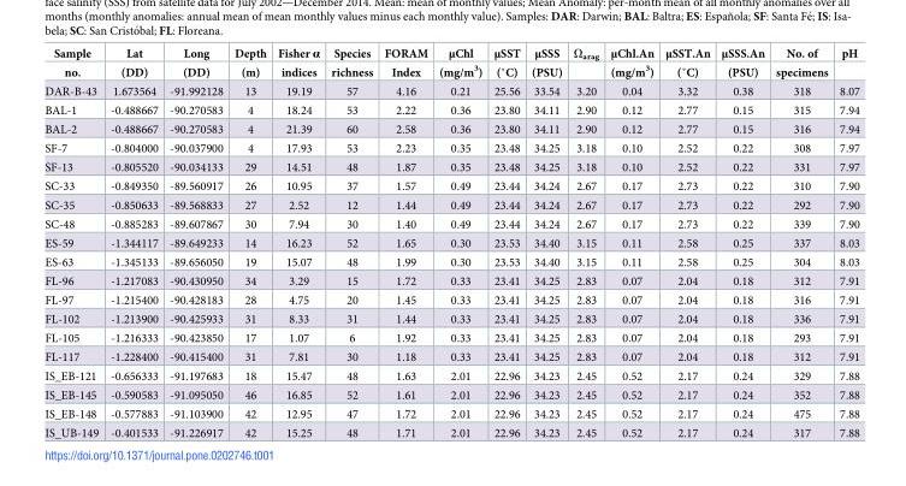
<table><thead><tr><td rowspan="2">Sample no.</td><td rowspan="2">Lat (DD)</td><td rowspan="2">Long (DD)</td><td rowspan="2">Depth (m)</td><td rowspan="2">Fisher α indices</td><td rowspan="2">Species richness</td><td rowspan="2">FORAM Index</td><td rowspan="2">μChl (mg/m<sup>3</sup>)</td><td rowspan="2">μSST (˚C)</td><td rowspan="2">μSSS (PSU)</td><td rowspan="2">Ω<sub>arag</sub></td><td rowspan="2">μChl.An (mg/m<sup>3</sup>)</td><td rowspan="2">μSST.An (˚C)</td><td rowspan="2">μSSS.An (PSU)</td><td rowspan="2">No. of specimens</td><td rowspan="2">pH</td></tr><tr></tr></thead><tbody><tr><td>DAR-B-43</td><td>1.673564</td><td>-91.992128</td><td>13</td><td>19.19</td><td>57</td><td>4.16</td><td>0.21</td><td>25.56</td><td>33.54</td><td>3.20</td><td>0.04</td><td>3.32</td><td>0.38</td><td>318</td><td>8.07</td></tr><tr><td>BAL-1</td><td>-0.488667</td><td>-90.270583</td><td>4</td><td>18.24</td><td>53</td><td>2.22</td><td>0.36</td><td>23.80</td><td>34.11</td><td>2.90</td><td>0.12</td><td>2.77</td><td>0.15</td><td>315</td><td>7.94</td></tr><tr><td>BAL-2</td><td>-0.488667</td><td>-90.270583</td><td>4</td><td>21.39</td><td>60</td><td>2.58</td><td>0.36</td><td>23.80</td><td>34.11</td><td>2.90</td><td>0.12</td><td>2.77</td><td>0.15</td><td>316</td><td>7.94</td></tr><tr><td>SF-7</td><td>-0.804000</td><td>-90.037900</td><td>4</td><td>17.93</td><td>53</td><td>2.23</td><td>0.35</td><td>23.48</td><td>34.25</td><td>3.18</td><td>0.10</td><td>2.52</td><td>0.22</td><td>308</td><td>7.97</td></tr><tr><td>SF-13</td><td>-0.805520</td><td>-90.034133</td><td>29</td><td>14.51</td><td>48</td><td>1.87</td><td>0.35</td><td>23.48</td><td>34.25</td><td>3.18</td><td>0.10</td><td>2.52</td><td>0.22</td><td>331</td><td>7.97</td></tr><tr><td>SC-33</td><td>-0.849350</td><td>-89.560917</td><td>26</td><td>10.95</td><td>37</td><td>1.57</td><td>0.49</td><td>23.44</td><td>34.24</td><td>2.67</td><td>0.17</td><td>2.73</td><td>0.22</td><td>310</td><td>7.90</td></tr><tr><td>SC-35</td><td>-0.850633</td><td>-89.568833</td><td>27</td><td>2.52</td><td>12</td><td>1.44</td><td>0.49</td><td>23.44</td><td>34.24</td><td>2.67</td><td>0.17</td><td>2.73</td><td>0.22</td><td>292</td><td>7.90</td></tr><tr><td>SC-48</td><td>-0.885283</td><td>-89.607867</td><td>30</td><td>7.94</td><td>30</td><td>1.40</td><td>0.49</td><td>23.44</td><td>34.24</td><td>2.67</td><td>0.17</td><td>2.73</td><td>0.22</td><td>339</td><td>7.90</td></tr><tr><td>ES-59</td><td>-1.344117</td><td>-89.649233</td><td>14</td><td>16.23</td><td>52</td><td>1.65</td><td>0.30</td><td>23.53</td><td>34.40</td><td>3.15</td><td>0.11</td><td>2.58</td><td>0.25</td><td>337</td><td>8.03</td></tr><tr><td>ES-63</td><td>-1.345133</td><td>-89.656050</td><td>19</td><td>15.07</td><td>48</td><td>1.99</td><td>0.30</td><td>23.53</td><td>34.40</td><td>3.15</td><td>0.11</td><td>2.58</td><td>0.25</td><td>304</td><td>8.03</td></tr><tr><td>FL-96</td><td>-1.217083</td><td>-90.430950</td><td>34</td><td>3.29</td><td>15</td><td>1.72</td><td>0.33</td><td>23.41</td><td>34.25</td><td>2.83</td><td>0.07</td><td>2.04</td><td>0.18</td><td>312</td><td>7.91</td></tr><tr><td>FL-97</td><td>-1.215400</td><td>-90.428183</td><td>28</td><td>4.75</td><td>20</td><td>1.45</td><td>0.33</td><td>23.41</td><td>34.25</td><td>2.83</td><td>0.07</td><td>2.04</td><td>0.18</td><td>316</td><td>7.91</td></tr><tr><td>FL-102</td><td>-1.213900</td><td>-90.425933</td><td>31</td><td>8.33</td><td>31</td><td>1.44</td><td>0.33</td><td>23.41</td><td>34.25</td><td>2.83</td><td>0.07</td><td>2.04</td><td>0.18</td><td>336</td><td>7.91</td></tr><tr><td>FL-105</td><td>-1.216333</td><td>-90.423850</td><td>17</td><td>1.07</td><td>6</td><td>1.92</td><td>0.33</td><td>23.41</td><td>34.25</td><td>2.83</td><td>0.07</td><td>2.04</td><td>0.18</td><td>293</td><td>7.91</td></tr><tr><td>FL-117</td><td>-1.228400</td><td>-90.415400</td><td>31</td><td>7.81</td><td>30</td><td>1.18</td><td>0.33</td><td>23.41</td><td>34.25</td><td>2.83</td><td>0.07</td><td>2.04</td><td>0.18</td><td>312</td><td>7.91</td></tr><tr><td>IS_EB-121</td><td>-0.656333</td><td>-91.197683</td><td>18</td><td>15.47</td><td>48</td><td>1.63</td><td>2.01</td><td>22.96</td><td>34.23</td><td>2.45</td><td>0.52</td><td>2.17</td><td>0.24</td><td>329</td><td>7.88</td></tr><tr><td>IS_EB-145</td><td>-0.590583</td><td>-91.095050</td><td>46</td><td>16.85</td><td>52</td><td>1.61</td><td>2.01</td><td>22.96</td><td>34.23</td><td>2.45</td><td>0.52</td><td>2.17</td><td>0.24</td><td>352</td><td>7.88</td></tr><tr><td>IS_EB-148</td><td>-0.577883</td><td>-91.103900</td><td>42</td><td>12.95</td><td>47</td><td>1.72</td><td>2.01</td><td>22.96</td><td>34.23</td><td>2.45</td><td>0.52</td><td>2.17</td><td>0.24</td><td>475</td><td>7.88</td></tr><tr><td>IS_UB-149</td><td>-0.401533</td><td>-91.226917</td><td>42</td><td>15.25</td><td>48</td><td>1.71</td><td>2.01</td><td>22.96</td><td>34.23</td><td>2.45</td><td>0.52</td><td>2.17</td><td>0.24</td><td>317</td><td>7.88</td></tr></tbody></table>